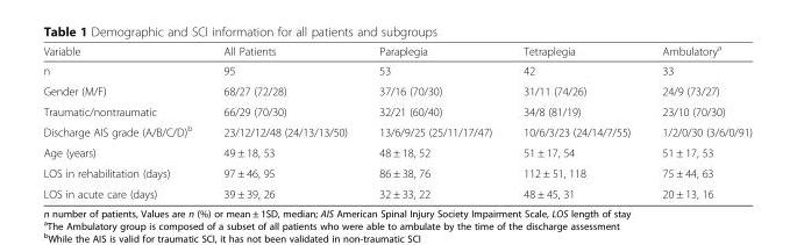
<table><thead><tr><td>Variable</td><td>All Patients</td><td>Paraplegia</td><td>Tetraplegia</td><td>Ambulatory<sup>a</sup></td></tr></thead><tbody><tr><td>n</td><td>95</td><td>53</td><td>42</td><td>33</td></tr><tr><td>Gender (M/F)</td><td>68/27 (72/28)</td><td>37/16 (70/30)</td><td>31/11 (74/26)</td><td>24/9 (73/27)</td></tr><tr><td>Traumatic/nontraumatic</td><td>66/29 (70/30)</td><td>32/21 (60/40)</td><td>34/8 (81/19)</td><td>23/10 (70/30)</td></tr><tr><td>Discharge AIS grade (A/B/C/D)<sup>b</sup></td><td>23/12/12/48 (24/13/13/50)</td><td>13/6/9/25 (25/11/17/47)</td><td>10/6/3/23 (24/14/7/55)</td><td>1/2/0/30 (3/6/0/91)</td></tr><tr><td>Age (years)</td><td>49 ± 18, 53</td><td>48 ± 18, 52</td><td>51 ± 17, 54</td><td>51 ± 17, 53</td></tr><tr><td>LOS in rehabilitation (days)</td><td>97 ± 46, 95</td><td>86 ± 38, 76</td><td>112 ± 51, 118</td><td>75 ± 44, 63</td></tr><tr><td>LOS in acute care (days)</td><td>39 ± 39, 26</td><td>32 ± 33, 22</td><td>48 ± 45, 31</td><td>20 ± 13, 16</td></tr></tbody></table>